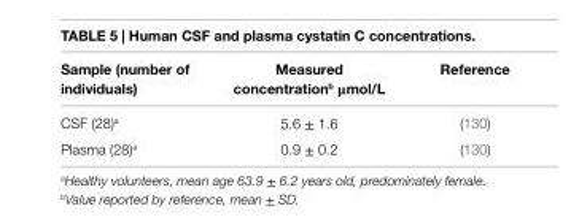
<table><thead><tr><td>Sample (number of individuals)</td><td>Measured concentration<sup>b</sup> μmol/L</td><td>Reference</td></tr></thead><tbody><tr><td>CSF (28)<sup>a</sup></td><td>5.6 ± 1.6</td><td>(130)</td></tr><tr><td>Plasma (28)<sup>a</sup></td><td>0.9 ± 0.2</td><td>(130)</td></tr></tbody></table>